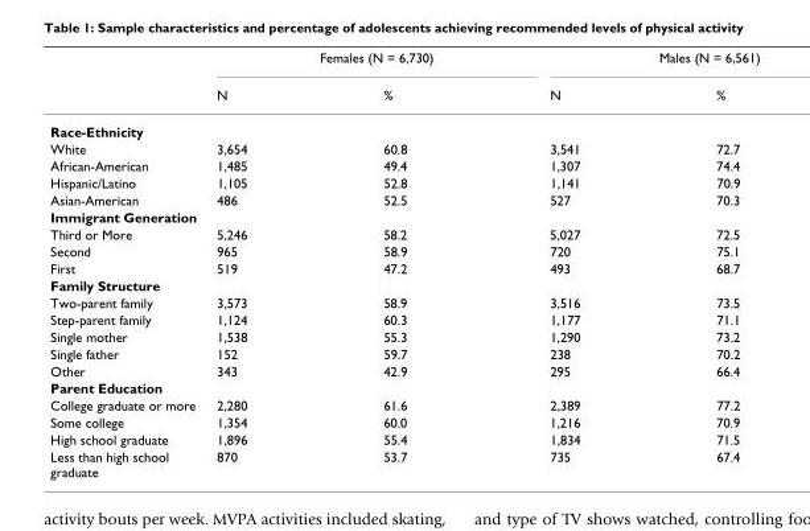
<table><thead><tr><td rowspan="2"></td><td colspan="2">Females (N = 6,730)</td><td colspan="2">Males (N = 6,561)</td></tr><tr><td>N</td><td>%</td><td>N</td><td>%</td></tr></thead><tbody><tr><td colspan="5">Race-Ethnicity</td></tr><tr><td>White</td><td>3,654</td><td>60.8</td><td>3,541</td><td>72.7</td></tr><tr><td>African-American</td><td>1,485</td><td>49.4</td><td>1,307</td><td>74.4</td></tr><tr><td>Hispanic/Latino</td><td>1,105</td><td>52.8</td><td>1,141</td><td>70.9</td></tr><tr><td>Asian-American</td><td>486</td><td>52.5</td><td>527</td><td>70.3</td></tr><tr><td colspan="5">Immigrant Generation</td></tr><tr><td>Third or More</td><td>5,246</td><td>58.2</td><td>5,027</td><td>72.5</td></tr><tr><td>Second</td><td>965</td><td>58.9</td><td>720</td><td>75.1</td></tr><tr><td>First</td><td>519</td><td>47.2</td><td>493</td><td>68.7</td></tr><tr><td colspan="5">Family Structure</td></tr><tr><td>Two-parent family</td><td>3,573</td><td>58.9</td><td>3,516</td><td>73.5</td></tr><tr><td>Step-parent family</td><td>1,124</td><td>60.3</td><td>1,177</td><td>71.1</td></tr><tr><td>Single mother</td><td>1,538</td><td>55.3</td><td>1,290</td><td>73.2</td></tr><tr><td>Single father</td><td>152</td><td>59.7</td><td>238</td><td>70.2</td></tr><tr><td>Other</td><td>343</td><td>42.9</td><td>295</td><td>66.4</td></tr><tr><td colspan="5">Parent Education</td></tr><tr><td>College graduate or more</td><td>2,280</td><td>61.6</td><td>2,389</td><td>77.2</td></tr><tr><td>Some college</td><td>1,354</td><td>60.0</td><td>1,216</td><td>70.9</td></tr><tr><td>High school graduate</td><td>1,896</td><td>55.4</td><td>1,834</td><td>71.5</td></tr><tr><td>Less than high school graduate</td><td>870</td><td>53.7</td><td>735</td><td>67.4</td></tr></tbody></table>